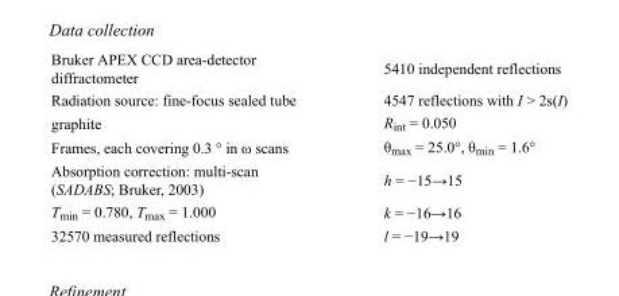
<table><tbody><tr><td>Bruker APEX CCD area-detector diffractometer</td><td>5410 independent reflections</td></tr><tr><td>Radiation source: fine-focus sealed tube</td><td>4547 reflections with I &gt; 2s(I)</td></tr><tr><td>graphite</td><td>R<sub>int</sub> = 0.050</td></tr><tr><td>Frames, each covering 0.3 ° in ω scans</td><td>θ<sub>max</sub> = 25.0°, θ<sub>min</sub> = 1.6°</td></tr><tr><td>Absorption correction: multi-scan (SADABS; Bruker, 2003)</td><td>h = −15→15</td></tr><tr><td>T<sub>min</sub> = 0.780, T<sub>max</sub> = 1.000</td><td>k = −16→16</td></tr><tr><td>32570 measured reflections</td><td>l = −19→19</td></tr></tbody></table>